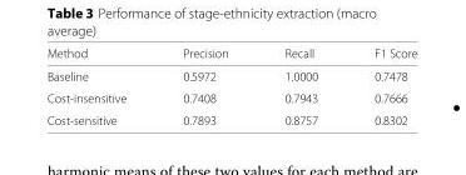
<table><thead><tr><td>Method</td><td>Precision</td><td>Recall</td><td>F1 Score</td></tr></thead><tbody><tr><td>Baseline</td><td>0.5972</td><td>1.0000</td><td>0.7478</td></tr><tr><td>Cost-insensitive</td><td>0.7408</td><td>0.7943</td><td>0.7666</td></tr><tr><td>Cost-sensitive</td><td>0.7893</td><td>0.8757</td><td>0.8302</td></tr></tbody></table>